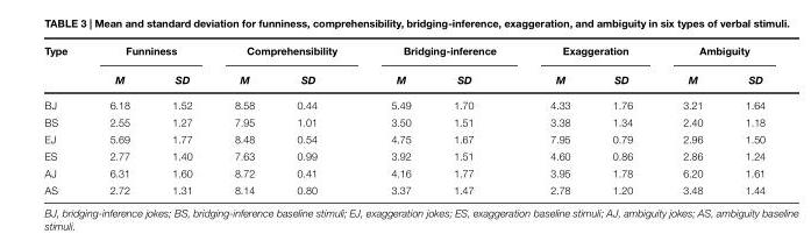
<table><thead><tr><td rowspan="2">Type</td><td colspan="2">Funniness</td><td colspan="2">Comprehensibility</td><td colspan="2">Bridging-inference</td><td colspan="2">Exaggeration</td><td colspan="2">Ambiguity</td></tr><tr><td>M</td><td>SD</td><td>M</td><td>SD</td><td>M</td><td>SD</td><td>M</td><td>SD</td><td>M</td><td>SD</td></tr></thead><tbody><tr><td>BJ</td><td>6.18</td><td>1.52</td><td>8.58</td><td>0.44</td><td>5.49</td><td>1.70</td><td>4.33</td><td>1.76</td><td>3.21</td><td>1.64</td></tr><tr><td>BS</td><td>2.55</td><td>1.27</td><td>7.95</td><td>1.01</td><td>3.50</td><td>1.51</td><td>3.38</td><td>1.34</td><td>2.40</td><td>1.18</td></tr><tr><td>EJ</td><td>5.69</td><td>1.77</td><td>8.48</td><td>0.54</td><td>4.75</td><td>1.67</td><td>7.95</td><td>0.79</td><td>2.96</td><td>1.50</td></tr><tr><td>ES</td><td>2.77</td><td>1.40</td><td>7.63</td><td>0.99</td><td>3.92</td><td>1.51</td><td>4.60</td><td>0.86</td><td>2.86</td><td>1.24</td></tr><tr><td>AJ</td><td>6.31</td><td>1.60</td><td>8.72</td><td>0.41</td><td>4.16</td><td>1.77</td><td>3.95</td><td>1.78</td><td>6.20</td><td>1.61</td></tr><tr><td>AS</td><td>2.72</td><td>1.31</td><td>8.14</td><td>0.80</td><td>3.37</td><td>1.47</td><td>2.78</td><td>1.20</td><td>3.48</td><td>1.44</td></tr></tbody></table>